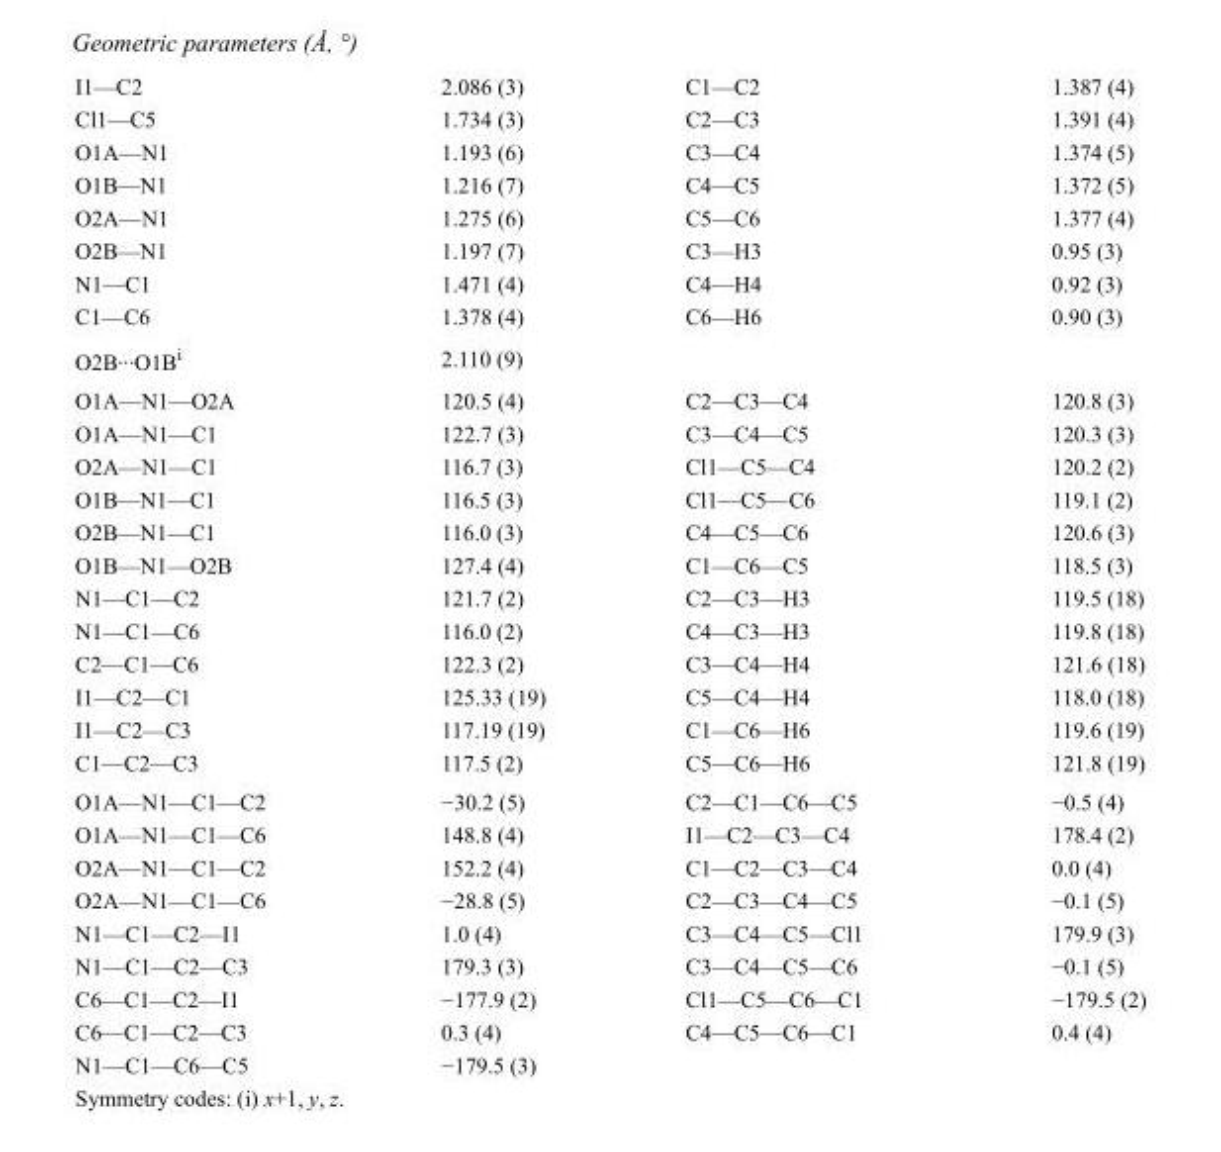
<table><tbody><tr><td>I1—C2</td><td>2.086 (3)</td><td>C1—C2</td><td>1.387 (4)</td></tr><tr><td>Cl1—C5</td><td>1.734 (3)</td><td>C2—C3</td><td>1.391 (4)</td></tr><tr><td>O1A—N1</td><td>1.193 (6)</td><td>C3—C4</td><td>1.374 (5)</td></tr><tr><td>O1B—N1</td><td>1.216 (7)</td><td>C4—C5</td><td>1.372 (5)</td></tr><tr><td>O2A—N1</td><td>1.275 (6)</td><td>C5—C6</td><td>1.377 (4)</td></tr><tr><td>O2B—N1</td><td>1.197 (7)</td><td>C3—H3</td><td>0.95 (3)</td></tr><tr><td>N1—C1</td><td>1.471 (4)</td><td>C4—H4</td><td>0.92 (3)</td></tr><tr><td>C1—C6</td><td>1.378 (4)</td><td>C6—H6</td><td>0.90 (3)</td></tr><tr><td>O2B···O1B<sup>i</sup></td><td>2.110 (9)</td><td></td><td></td></tr><tr><td>O1A—N1—O2A</td><td>120.5 (4)</td><td>C2—C3—C4</td><td>120.8 (3)</td></tr><tr><td>O1A—N1—C1</td><td>122.7 (3)</td><td>C3—C4—C5</td><td>120.3 (3)</td></tr><tr><td>O2A—N1—C1</td><td>116.7 (3)</td><td>Cl1—C5—C4</td><td>120.2 (2)</td></tr><tr><td>O1B—N1—C1</td><td>116.5 (3)</td><td>Cl1—C5—C6</td><td>119.1 (2)</td></tr><tr><td>O2B—N1—C1</td><td>116.0 (3)</td><td>C4—C5—C6</td><td>120.6 (3)</td></tr><tr><td>O1B—N1—O2B</td><td>127.4 (4)</td><td>C1—C6—C5</td><td>118.5 (3)</td></tr><tr><td>N1—C1—C2</td><td>121.7 (2)</td><td>C2—C3—H3</td><td>119.5 (18)</td></tr><tr><td>N1—C1—C6</td><td>116.0 (2)</td><td>C4—C3—H3</td><td>119.8 (18)</td></tr><tr><td>C2—C1—C6</td><td>122.3 (2)</td><td>C3—C4—H4</td><td>121.6 (18)</td></tr><tr><td>I1—C2—C1</td><td>125.33 (19)</td><td>C5—C4—H4</td><td>118.0 (18)</td></tr><tr><td>I1—C2—C3</td><td>117.19 (19)</td><td>C1—C6—H6</td><td>119.6 (19)</td></tr><tr><td>C1—C2—C3</td><td>117.5 (2)</td><td>C5—C6—H6</td><td>121.8 (19)</td></tr><tr><td>O1A—N1—C1—C2</td><td>−30.2 (5)</td><td>C2—C1—C6—C5</td><td>−0.5 (4)</td></tr><tr><td>O1A—N1—C1—C6</td><td>148.8 (4)</td><td>I1—C2—C3—C4</td><td>178.4 (2)</td></tr><tr><td>O2A—N1—C1—C2</td><td>152.2 (4)</td><td>C1—C2—C3—C4</td><td>0.0 (4)</td></tr><tr><td>O2A—N1—C1—C6</td><td>−28.8 (5)</td><td>C2—C3—C4—C5</td><td>−0.1 (5)</td></tr><tr><td>N1—C1—C2—I1</td><td>1.0 (4)</td><td>C3—C4—C5—Cl1</td><td>179.9 (3)</td></tr><tr><td>N1—C1—C2—C3</td><td>179.3 (3)</td><td>C3—C4—C5—C6</td><td>−0.1 (5)</td></tr><tr><td>C6—C1—C2—I1</td><td>−177.9 (2)</td><td>Cl1—C5—C6—C1</td><td>−179.5 (2)</td></tr><tr><td>C6—C1—C2—C3</td><td>0.3 (4)</td><td>C4—C5—C6—C1</td><td>0.4 (4)</td></tr><tr><td>N1—C1—C6—C5</td><td>−179.5 (3)</td><td></td><td></td></tr></tbody></table>